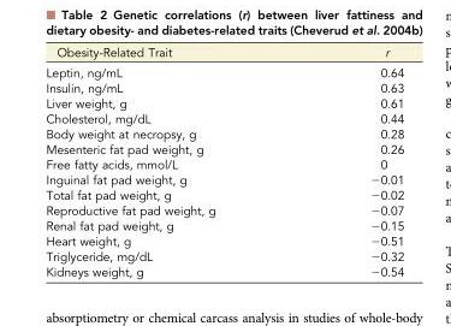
<table><thead><tr><td>Obesity-Related Trait</td><td>r</td></tr></thead><tbody><tr><td>Leptin, ng/mL</td><td>0.64</td></tr><tr><td>Insulin, ng/mL</td><td>0.63</td></tr><tr><td>Liver weight, g</td><td>0.61</td></tr><tr><td>Cholesterol, mg/dL</td><td>0.44</td></tr><tr><td>Body weight at necropsy, g</td><td>0.28</td></tr><tr><td>Mesenteric fat pad weight, g</td><td>0.26</td></tr><tr><td>Free fatty acids, mmol/L</td><td>0</td></tr><tr><td>Inguinal fat pad weight, g</td><td>−0.01</td></tr><tr><td>Total fat pad weight, g</td><td>−0.02</td></tr><tr><td>Reproductive fat pad weight, g</td><td>−0.07</td></tr><tr><td>Renal fat pad weight, g</td><td>−0.15</td></tr><tr><td>Heart weight, g</td><td>−0.51</td></tr><tr><td>Triglyceride, mg/dL</td><td>−0.32</td></tr><tr><td>Kidneys weight, g</td><td>−0.54</td></tr></tbody></table>